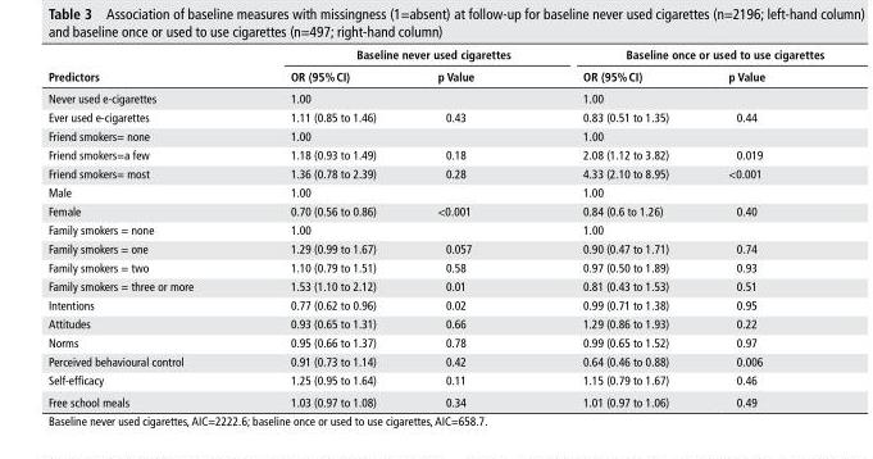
<table><thead><tr><td rowspan="2">Predictors</td><td colspan="2">baseline never used cigarettes</td><td colspan="2">baseline once or used to use cigarettes</td></tr><tr><td>oR (95% CI)</td><td>p Value</td><td>oR (95% CI)</td><td>p Value</td></tr></thead><tbody><tr><td>Never used e-cigarettes</td><td>1.00</td><td></td><td>1.00</td><td></td></tr><tr><td>Ever used e-cigarettes</td><td>1.11 (0.85 to 1.46)</td><td>0.43</td><td>0.83 (0.51 to 1.35)</td><td>0.44</td></tr><tr><td>Friend smokers= none</td><td>1.00</td><td></td><td>1.00</td><td></td></tr><tr><td>Friend smokers=a few</td><td>1.18 (0.93 to 1.49)</td><td>0.18</td><td>2.08 (1.12 to 3.82)</td><td>0.019</td></tr><tr><td>Friend smokers= most</td><td>1.36 (0.78 to 2.39)</td><td>0.28</td><td>4.33 (2.10 to 8.95)</td><td>&lt;0.001</td></tr><tr><td>Male</td><td>1.00</td><td></td><td>1.00</td><td></td></tr><tr><td>Female</td><td>0.70 (0.56 to 0.86)</td><td>&lt;0.001</td><td>0.84 (0.6 to 1.26)</td><td>0.40</td></tr><tr><td>Family smokers = none</td><td>1.00</td><td></td><td>1.00</td><td></td></tr><tr><td>Family smokers = one</td><td>1.29 (0.99 to 1.67)</td><td>0.057</td><td>0.90 (0.47 to 1.71)</td><td>0.74</td></tr><tr><td>Family smokers = two</td><td>1.10 (0.79 to 1.51)</td><td>0.58</td><td>0.97 (0.50 to 1.89)</td><td>0.93</td></tr><tr><td>Family smokers = three or more</td><td>1.53 (1.10 to 2.12)</td><td>0.01</td><td>0.81 (0.43 to 1.53)</td><td>0.51</td></tr><tr><td>Intentions</td><td>0.77 (0.62 to 0.96)</td><td>0.02</td><td>0.99 (0.71 to 1.38)</td><td>0.95</td></tr><tr><td>Attitudes</td><td>0.93 (0.65 to 1.31)</td><td>0.66</td><td>1.29 (0.86 to 1.93)</td><td>0.22</td></tr><tr><td>Norms</td><td>0.95 (0.66 to 1.37)</td><td>0.78</td><td>0.99 (0.65 to 1.52)</td><td>0.97</td></tr><tr><td>Perceived behavioural control</td><td>0.91 (0.73 to 1.14)</td><td>0.42</td><td>0.64 (0.46 to 0.88)</td><td>0.006</td></tr><tr><td>Self-efficacy</td><td>1.25 (0.95 to 1.64)</td><td>0.11</td><td>1.15 (0.79 to 1.67)</td><td>0.46</td></tr><tr><td>Free school meals</td><td>1.03 (0.97 to 1.08)</td><td>0.34</td><td>1.01 (0.97 to 1.06)</td><td>0.49</td></tr></tbody></table>